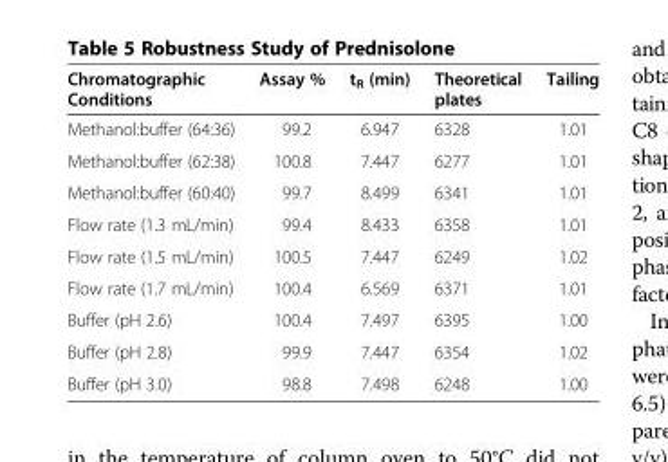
<table><thead><tr><td>Chromatographic Conditions</td><td>Assay %</td><td>t<sub>R</sub> (min)</td><td>Theoretical plates</td><td>Tailing</td></tr></thead><tbody><tr><td>Methanol:buffer (64:36)</td><td>99.2</td><td>6.947</td><td>6328</td><td>1.01</td></tr><tr><td>Methanol:buffer (62:38)</td><td>100.8</td><td>7.447</td><td>6277</td><td>1.01</td></tr><tr><td>Methanol:buffer (60:40)</td><td>99.7</td><td>8.499</td><td>6341</td><td>1.01</td></tr><tr><td>Flow rate (1.3 mL/min)</td><td>99.4</td><td>8.433</td><td>6358</td><td>1.01</td></tr><tr><td>Flow rate (1.5 mL/min)</td><td>100.5</td><td>7.447</td><td>6249</td><td>1.02</td></tr><tr><td>Flow rate (1.7 mL/min)</td><td>100.4</td><td>6.569</td><td>6371</td><td>1.01</td></tr><tr><td>Buffer (pH 2.6)</td><td>100.4</td><td>7.497</td><td>6395</td><td>1.00</td></tr><tr><td>Buffer (pH 2.8)</td><td>99.9</td><td>7.447</td><td>6354</td><td>1.02</td></tr><tr><td>Buffer (pH 3.0)</td><td>98.8</td><td>7.498</td><td>6248</td><td>1.00</td></tr></tbody></table>